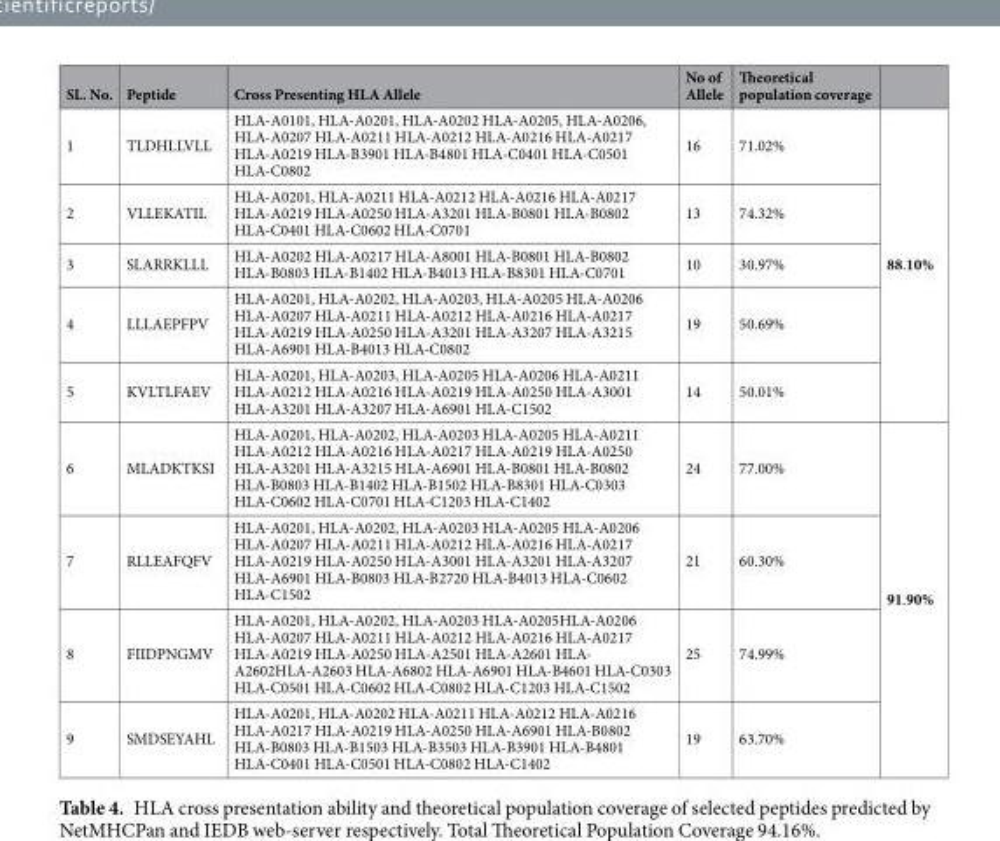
<table><thead><tr><td>SL. No.</td><td>Peptide</td><td>Cross Presenting HLA Allele</td><td>No of Allele</td><td>Theoretical population coverage</td><td></td></tr></thead><tbody><tr><td>1</td><td>TLDHLLVLL</td><td>HLA-A0101, HLA-A0201, HLA-A0202 HLA-A0205, HLA-A0206, HLA-A0207 HLA-A0211 HLA-A0212 HLA-A0216 HLA-A0217 HLA-A0219 HLA-B3901 HLA-B4801 HLA-C0401 HLA-C0501 HLA-C0802</td><td>16</td><td>71.02%</td><td rowspan="5">88.10%</td></tr><tr><td>2</td><td>VLLEKATIL</td><td>HLA-A0201, HLA-A0211 HLA-A0212 HLA-A0216 HLA-A0217 HLA-A0219 HLA-A0250 HLA-A3201 HLA-B0801 HLA-B0802 HLA-C0401 HLA-C0602 HLA-C0701</td><td>13</td><td>74.32%</td></tr><tr><td>3</td><td>SLARRKLLL</td><td>HLA-A0202 HLA-A0217 HLA-A8001 HLA-B0801 HLA-B0802 HLA-B0803 HLA-B1402 HLA-B4013 HLA-B8301 HLA-C0701</td><td>10</td><td>30.97%</td></tr><tr><td>4</td><td>LLLAEPFPV</td><td>HLA-A0201, HLA-A0202, HLA-A0203, HLA-A0205 HLA-A0206 HLA-A0207 HLA-A0211 HLA-A0212 HLA-A0216 HLA-A0217 HLA-A0219 HLA-A0250 HLA-A3201 HLA-A3207 HLA-A3215 HLA-A6901 HLA-B4013 HLA-C0802</td><td>19</td><td>50.69%</td></tr><tr><td>5</td><td>KVLTLFAEV</td><td>HLA-A0201, HLA-A0203, HLA-A0205 HLA-A0206 HLA-A0211 HLA-A0212 HLA-A0216 HLA-A0219 HLA-A0250 HLA-A3001 HLA-A3201 HLA-A3207 HLA-A6901 HLA-C1502</td><td>14</td><td>50.01%</td></tr><tr><td>6</td><td>MLADKTKSI</td><td>HLA-A0201, HLA-A0202, HLA-A0203 HLA-A0205 HLA-A0211 HLA-A0212 HLA-A0216 HLA-A0217 HLA-A0219 HLA-A0250 HLA-A3201 HLA-A3215 HLA-A6901 HLA-B0801 HLA-B0802 HLA-B0803 HLA-B1402 HLA-B1502 HLA-B8301 HLA-C0303 HLA-C0602 HLA-C0701 HLA-C1203 HLA-C1402</td><td>24</td><td>77.00%</td><td rowspan="4">91.90%</td></tr><tr><td>7</td><td>RLLEAFQFV</td><td>HLA-A0201, HLA-A0202, HLA-A0203 HLA-A0205 HLA-A0206 HLA-A0207 HLA-A0211 HLA-A0212 HLA-A0216 HLA-A0217 HLA-A0219 HLA-A0250 HLA-A3001 HLA-A3201 HLA-A3207 HLA-A6901 HLA-B0803 HLA-B2720 HLA-B4013 HLA-C0602 HLA-C1502</td><td>21</td><td>60.30%</td></tr><tr><td>8</td><td>FIIDPNGMV</td><td>HLA-A0201, HLA-A0202, HLA-A0203 HLA-A0205HLA-A0206 HLA-A0207 HLA-A0211 HLA-A0212 HLA-A0216 HLA-A0217 HLA-A0219 HLA-A0250 HLA-A2501 HLA-A2601 HLA- A2602HLA-A2603 HLA-A6802 HLA-A6901 HLA-B4601 HLA-C0303 HLA-C0501 HLA-C0602 HLA-C0802 HLA-C1203 HLA-C1502</td><td>25</td><td>74.99%</td></tr><tr><td>9</td><td>SMDSEYAHL</td><td>HLA-A0201, HLA-A0202 HLA-A0211 HLA-A0212 HLA-A0216 HLA-A0217 HLA-A0219 HLA-A0250 HLA-A6901 HLA-B0802 HLA-B0803 HLA-B1503 HLA-B3503 HLA-B3901 HLA-B4801 HLA-C0401 HLA-C0501 HLA-C0802 HLA-C1402</td><td>19</td><td>63.70%</td></tr></tbody></table>